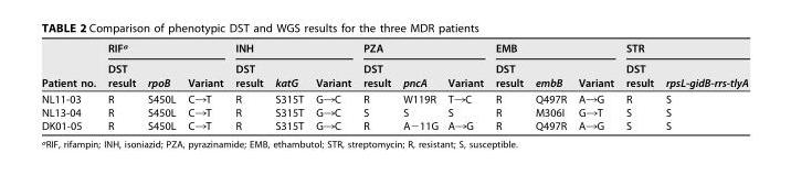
<table><thead><tr><td rowspan="2">Patient no.</td><td colspan="3">RIF<sup>a</sup></td><td colspan="3">INH</td><td colspan="3">PZA</td><td colspan="3">EMB</td><td colspan="2">STR</td></tr><tr><td>DST result</td><td>rpoB</td><td>Variant</td><td>DST result</td><td>katG</td><td>Variant</td><td>DST result</td><td>pncA</td><td>Variant</td><td>DST result</td><td>embB</td><td>Variant</td><td>DST result</td><td>rpsL-gidB-rrs-tlyA</td></tr></thead><tbody><tr><td>NL11-03</td><td>R</td><td>S450L</td><td>C→T</td><td>R</td><td>S315T</td><td>G→C</td><td>R</td><td>W119R</td><td>T→C</td><td>R</td><td>Q497R</td><td>A→G</td><td>R</td><td>S</td></tr><tr><td>NL13-04</td><td>R</td><td>S450L</td><td>C→T</td><td>R</td><td>S315T</td><td>G→C</td><td>S</td><td>S</td><td>S</td><td>R</td><td>M306I</td><td>G→T</td><td>S</td><td>S</td></tr><tr><td>DK01-05</td><td>R</td><td>S450L</td><td>C→T</td><td>R</td><td>S315T</td><td>G→C</td><td>R</td><td>A−11G</td><td>A→G</td><td>R</td><td>Q497R</td><td>A→G</td><td>S</td><td>S</td></tr></tbody></table>